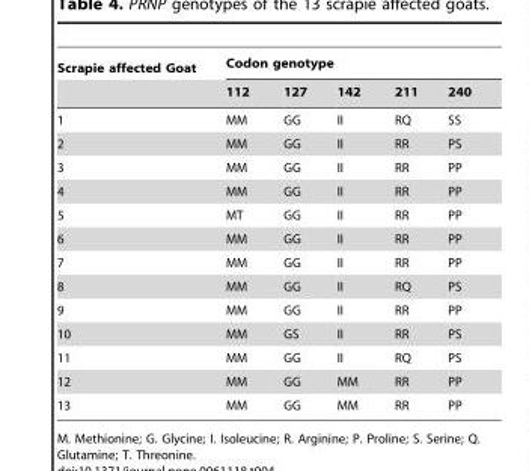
<table><thead><tr><td rowspan="2">Scrapie affected Goat</td><td colspan="5">Codon genotype</td></tr><tr><td>112</td><td>127</td><td>142</td><td>211</td><td>240</td></tr></thead><tbody><tr><td>1</td><td>MM</td><td>GG</td><td>II</td><td>RQ</td><td>SS</td></tr><tr><td>2</td><td>MM</td><td>GG</td><td>II</td><td>RR</td><td>PS</td></tr><tr><td>3</td><td>MM</td><td>GG</td><td>II</td><td>RR</td><td>PP</td></tr><tr><td>4</td><td>MM</td><td>GG</td><td>II</td><td>RR</td><td>PP</td></tr><tr><td>5</td><td>MT</td><td>GG</td><td>II</td><td>RR</td><td>PP</td></tr><tr><td>6</td><td>MM</td><td>GG</td><td>II</td><td>RR</td><td>PP</td></tr><tr><td>7</td><td>MM</td><td>GG</td><td>II</td><td>RR</td><td>PP</td></tr><tr><td>8</td><td>MM</td><td>GG</td><td>II</td><td>RQ</td><td>PS</td></tr><tr><td>9</td><td>MM</td><td>GG</td><td>II</td><td>RR</td><td>PP</td></tr><tr><td>10</td><td>MM</td><td>GS</td><td>II</td><td>RR</td><td>PS</td></tr><tr><td>11</td><td>MM</td><td>GG</td><td>II</td><td>RQ</td><td>PS</td></tr><tr><td>12</td><td>MM</td><td>GG</td><td>MM</td><td>RR</td><td>PP</td></tr><tr><td>13</td><td>MM</td><td>GG</td><td>MM</td><td>RR</td><td>PP</td></tr></tbody></table>